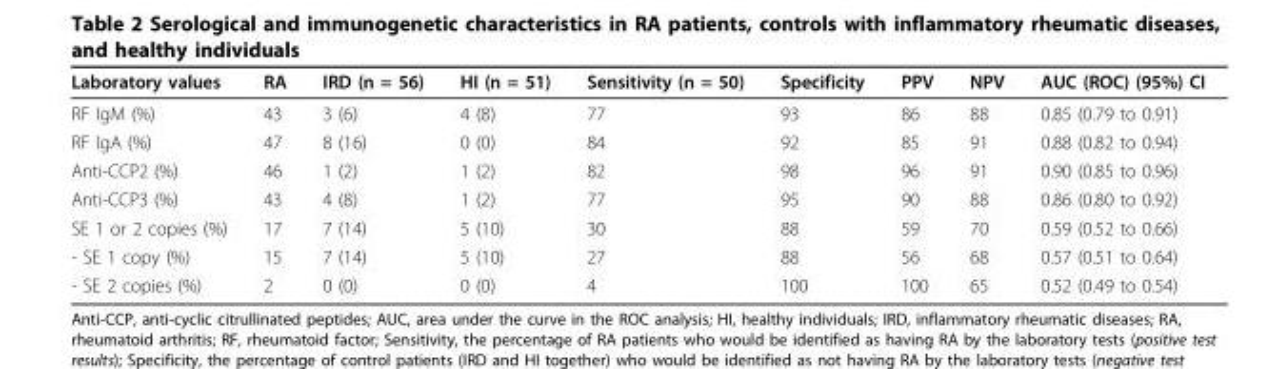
<table><thead><tr><td>Laboratory values</td><td>RA</td><td>IRD (n = 56)</td><td>HI (n = 51)</td><td>Sensitivity (n = 50)</td><td>Specificity</td><td>PPV</td><td>NPV</td><td>AUC (ROC) (95%) CI</td></tr></thead><tbody><tr><td>RF IgM (%)</td><td>43</td><td>3 (6)</td><td>4 (8)</td><td>77</td><td>93</td><td>86</td><td>88</td><td>0.85 (0.79 to 0.91)</td></tr><tr><td>RF IgA (%)</td><td>47</td><td>8 (16)</td><td>0 (0)</td><td>84</td><td>92</td><td>85</td><td>91</td><td>0.88 (0.82 to 0.94)</td></tr><tr><td>Anti-CCP2 (%)</td><td>46</td><td>1 (2)</td><td>1 (2)</td><td>82</td><td>98</td><td>96</td><td>91</td><td>0.90 (0.85 to 0.96)</td></tr><tr><td>Anti-CCP3 (%)</td><td>43</td><td>4 (8)</td><td>1 (2)</td><td>77</td><td>95</td><td>90</td><td>88</td><td>0.86 (0.80 to 0.92)</td></tr><tr><td>SE 1 or 2 copies (%)</td><td>17</td><td>7 (14)</td><td>5 (10)</td><td>30</td><td>88</td><td>59</td><td>70</td><td>0.59 (0.52 to 0.66)</td></tr><tr><td>- SE 1 copy (%)</td><td>15</td><td>7 (14)</td><td>5 (10)</td><td>27</td><td>88</td><td>56</td><td>68</td><td>0.57 (0.51 to 0.64)</td></tr><tr><td>- SE 2 copies (%)</td><td>2</td><td>0 (0)</td><td>0 (0)</td><td>4</td><td>100</td><td>100</td><td>65</td><td>0.52 (0.49 to 0.54)</td></tr></tbody></table>